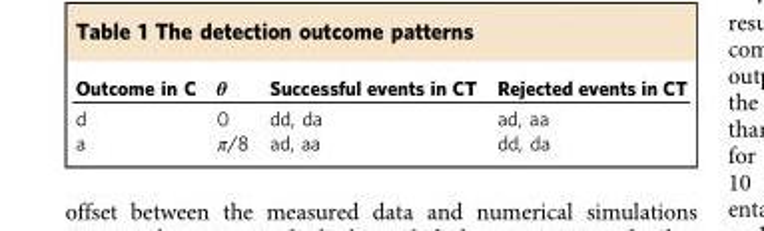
<table><thead><tr><td>Outcome in C</td><td>θ</td><td>Successful events in CT</td><td>Rejected events in CT</td></tr></thead><tbody><tr><td>d</td><td>0</td><td>dd, da</td><td>ad, aa</td></tr><tr><td>a</td><td>π/8</td><td>ad, aa</td><td>dd, da</td></tr></tbody></table>